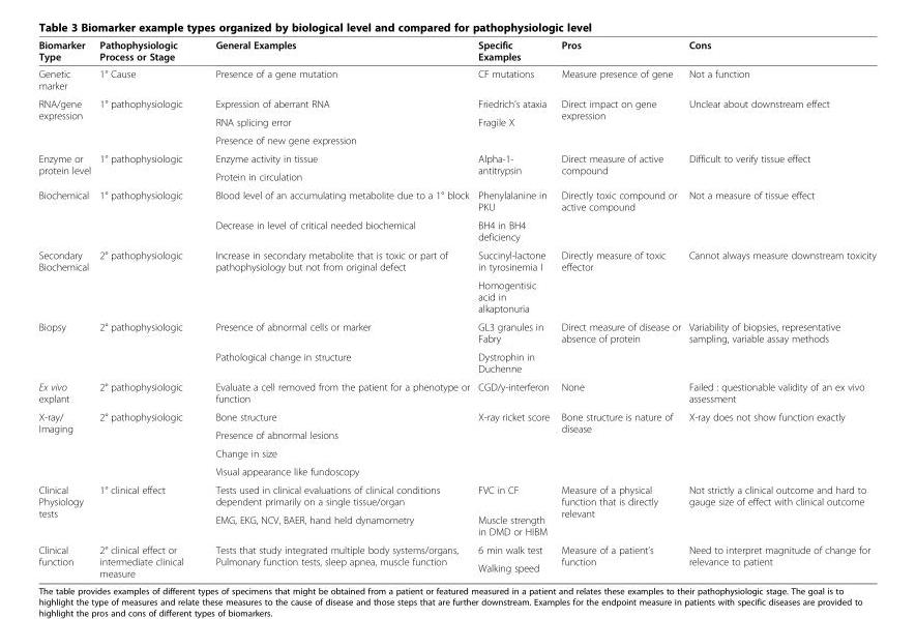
<table><thead><tr><td>Biomarker Type</td><td>Pathophysiologic Process or Stage</td><td>General Examples</td><td>Specific Examples</td><td>Pros</td><td>Cons</td></tr></thead><tbody><tr><td>Genetic marker</td><td>1° Cause</td><td>Presence of a gene mutation</td><td>CF mutations</td><td>Measure presence of gene</td><td>Not a function</td></tr><tr><td rowspan="3">RNA/gene expression</td><td rowspan="3">1° pathophysiologic</td><td>Expression of aberrant RNA</td><td>Friedrich’s ataxia</td><td rowspan="3">Direct impact on gene expression</td><td rowspan="3">Unclear about downstream effect</td></tr><tr><td>RNA splicing error</td><td rowspan="2">Fragile X</td></tr><tr><td>Presence of new gene expression</td></tr><tr><td rowspan="2">Enzyme or protein level</td><td rowspan="2">1° pathophysiologic</td><td>Enzyme activity in tissue</td><td rowspan="2">Alpha-1- antitrypsin</td><td rowspan="2">Direct measure of active compound</td><td rowspan="2">Difficult to verify tissue effect</td></tr><tr><td>Protein in circulation</td></tr><tr><td rowspan="2">Biochemical</td><td rowspan="2">1° pathophysiologic</td><td>Blood level of an accumulating metabolite due to a 1° block</td><td>Phenylalanine in PKU</td><td rowspan="2">Directly toxic compound or active compound</td><td rowspan="2">Not a measure of tissue effect</td></tr><tr><td>Decrease in level of critical needed biochemical</td><td>BH4 in BH4 deficiency</td></tr><tr><td rowspan="2">Secondary Biochemical</td><td rowspan="2">2° pathophysiologic</td><td rowspan="2">Increase in secondary metabolite that is toxic or part of pathophysiology but not from original defect</td><td>Succinyl-lactone in tyrosinemia I</td><td rowspan="2">Directly measure of toxic effector</td><td rowspan="2">Cannot always measure downstream toxicity</td></tr><tr><td>Homogentisic acid in alkaptonuria</td></tr><tr><td rowspan="2">Biopsy</td><td rowspan="2">2° pathophysiologic</td><td>Presence of abnormal cells or marker</td><td>GL3 granules in Fabry</td><td rowspan="2">Direct measure of disease or absence of protein</td><td rowspan="2">Variability of biopsies, representative sampling, variable assay methods</td></tr><tr><td>Pathological change in structure</td><td>Dystrophin in Duchenne</td></tr><tr><td>Ex vivo explant</td><td>2° pathophysiologic</td><td>Evaluate a cell removed from the patient for a phenotype or function</td><td>CGD/y-interferon</td><td>None</td><td>Failed : questionable validity of an ex vivo assessment</td></tr><tr><td rowspan="4">X-ray/ Imaging</td><td rowspan="4">2° pathophysiologic</td><td>Bone structure</td><td rowspan="4">X-ray ricket score</td><td rowspan="4">Bone structure is nature of disease</td><td rowspan="4">X-ray does not show function exactly</td></tr><tr><td>Presence of abnormal lesions</td></tr><tr><td>Change in size</td></tr><tr><td>Visual appearance like fundoscopy</td></tr><tr><td rowspan="2">Clinical Physiology tests</td><td rowspan="2">1° clinical effect</td><td>Tests used in clinical evaluations of clinical conditions dependent primarily on a single tissue/organ</td><td>FVC in CF</td><td rowspan="2">Measure of a physical function that is directly relevant</td><td rowspan="2">Not strictly a clinical outcome and hard to gauge size of effect with clinical outcome</td></tr><tr><td>EMG, EKG, NCV, BAER, hand held dynamometry</td><td>Muscle strength in DMD or HIBM</td></tr><tr><td rowspan="2">Clinical function</td><td rowspan="2">2° clinical effect or intermediate clinical measure</td><td rowspan="2">Tests that study integrated multiple body systems/organs, Pulmonary function tests, sleep apnea, muscle function</td><td>6 min walk test</td><td rowspan="2">Measure of a patient’s function</td><td rowspan="2">Need to interpret magnitude of change for relevance to patient</td></tr><tr><td>Walking speed</td></tr></tbody></table>